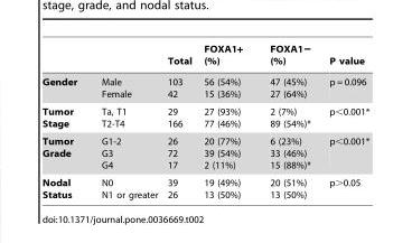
<table><thead><tr><td></td><td></td><td>Total</td><td>FOXA1+ (%)</td><td>FOXA1− (%)</td><td>P value</td></tr></thead><tbody><tr><td>Gender</td><td>Male Female</td><td>103 42</td><td>56 (54%) 15 (36%)</td><td>47 (45%) 27 (64%)</td><td>p = 0.096</td></tr><tr><td>Tumor Stage</td><td>Ta, T1 T2-T4</td><td>29 166</td><td>27 (93%) 77 (46%)</td><td>2 (7%) 89 (54%)*</td><td>p&lt;0.001*</td></tr><tr><td>Tumor Grade</td><td>G1-2 G3 G4</td><td>26 72 17</td><td>20 (77%) 39 (54%) 2 (11%)</td><td>6 (23%) 33 (46%) 15 (88%)*</td><td>p&lt;0.001*</td></tr><tr><td>Nodal Status</td><td>N0 N1 or greater</td><td>39 26</td><td>19 (49%) 13 (50%)</td><td>20 (51%) 13 (50%)</td><td>p&gt;0.05</td></tr></tbody></table>